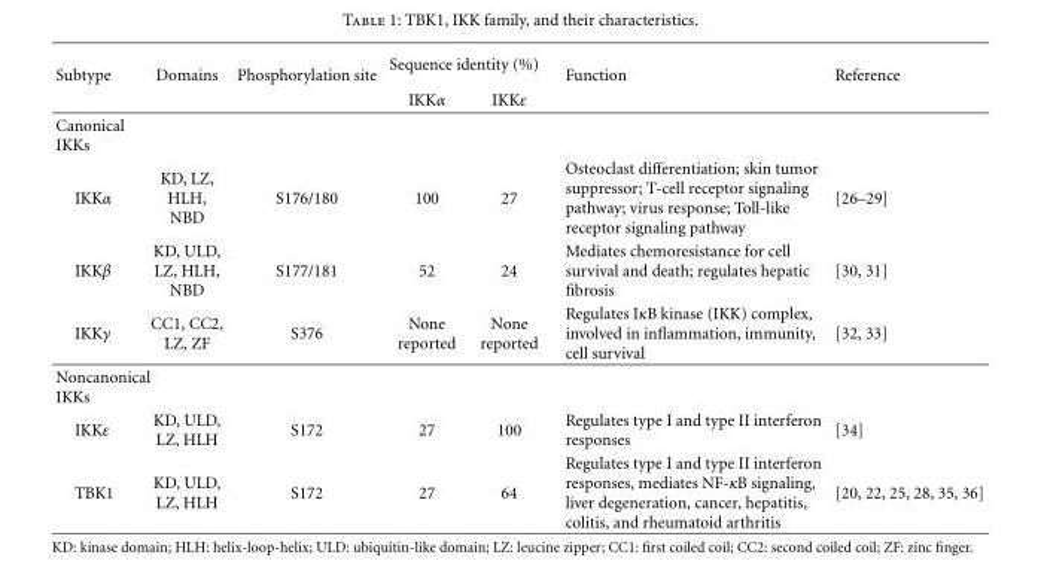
<table><thead><tr><td rowspan="2">Subtype</td><td rowspan="2">Domains</td><td rowspan="2">Phosphorylation site</td><td colspan="2">Sequence identity (%)</td><td rowspan="2">Function</td><td rowspan="2">Reference</td></tr><tr><td>IKKα</td><td>IKKε</td></tr></thead><tbody><tr><td colspan="7">Canonical IKKs</td></tr><tr><td>IKKα</td><td>KD, LZ, HLH, NBD</td><td>S176/180</td><td>100</td><td>27</td><td>Osteoclast differentiation; skin tumor suppressor; T-cell receptor signaling pathway; virus response; Toll-like receptor signaling pathway</td><td>[26–29]</td></tr><tr><td>IKKβ</td><td>KD, ULD, LZ, HLH, NBD</td><td>S177/181</td><td>52</td><td>24</td><td>Mediates chemoresistance for cell survival and death; regulates hepatic fibrosis</td><td>[30, 31]</td></tr><tr><td>IKKγ</td><td>CC1, CC2, LZ, ZF</td><td>S376</td><td>None reported</td><td>None reported</td><td>Regulates IκB kinase (IKK) complex, involved in inflammation, immunity, cell survival</td><td>[32, 33]</td></tr><tr><td colspan="7">Noncanonical IKKs</td></tr><tr><td>IKKε</td><td>KD, ULD, LZ, HLH</td><td>S172</td><td>27</td><td>100</td><td>Regulates type I and type II interferon responses</td><td>[34]</td></tr><tr><td>TBK1</td><td>KD, ULD, LZ, HLH</td><td>S172</td><td>27</td><td>64</td><td>Regulates type I and type II interferon responses, mediates NF-κB signaling, liver degeneration, cancer, hepatitis, colitis, and rheumatoid arthritis</td><td>[20, 22, 25, 28, 35, 36]</td></tr></tbody></table>